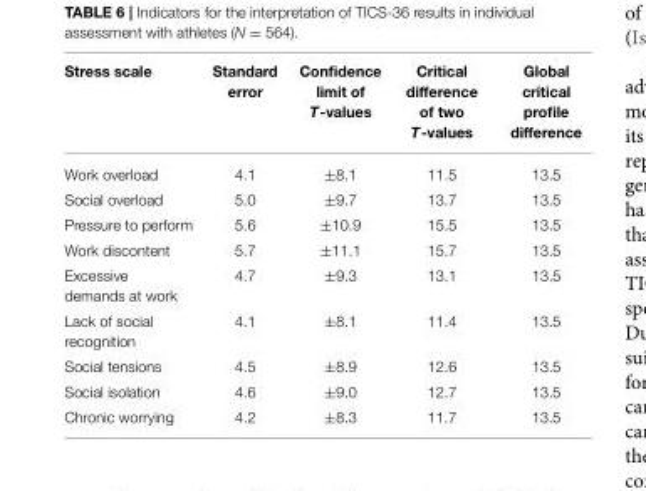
<table><thead><tr><td>Stress scale</td><td>Standard error</td><td>Confidence limit of T-values</td><td>Critical difference of two T-values</td><td>Global critical profile difference</td></tr></thead><tbody><tr><td>Work overload</td><td>4.1</td><td>±8.1</td><td>11.5</td><td>13.5</td></tr><tr><td>Social overload</td><td>5.0</td><td>±9.7</td><td>13.7</td><td>13.5</td></tr><tr><td>Pressure to perform</td><td>5.6</td><td>±10.9</td><td>15.5</td><td>13.5</td></tr><tr><td>Work discontent</td><td>5.7</td><td>±11.1</td><td>15.7</td><td>13.5</td></tr><tr><td>Excessive demands at work</td><td>4.7</td><td>±9.3</td><td>13.1</td><td>13.5</td></tr><tr><td>Lack of social recognition</td><td>4.1</td><td>±8.1</td><td>11.4</td><td>13.5</td></tr><tr><td>Social tensions</td><td>4.5</td><td>±8.9</td><td>12.6</td><td>13.5</td></tr><tr><td>Social isolation</td><td>4.6</td><td>±9.0</td><td>12.7</td><td>13.5</td></tr><tr><td>Chronic worrying</td><td>4.2</td><td>±8.3</td><td>11.7</td><td>13.5</td></tr></tbody></table>